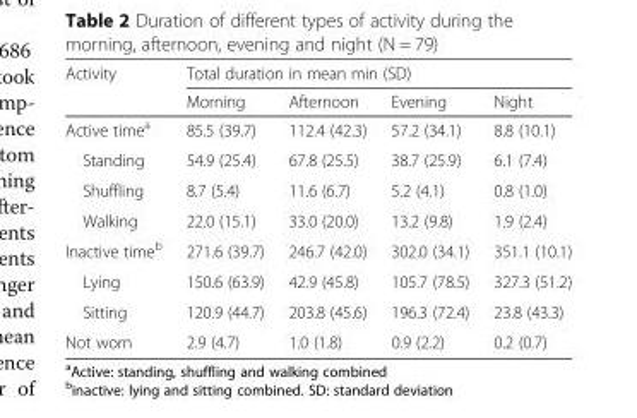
<table><thead><tr><td rowspan="2">Activity</td><td colspan="4">Total duration in mean min (SD)</td></tr><tr><td>Morning</td><td>Afternoon</td><td>Evening</td><td>Night</td></tr></thead><tbody><tr><td>Active time<sup>a</sup></td><td>85.5 (39.7)</td><td>112.4 (42.3)</td><td>57.2 (34.1)</td><td>8.8 (10.1)</td></tr><tr><td>Standing</td><td>54.9 (25.4)</td><td>67.8 (25.5)</td><td>38.7 (25.9)</td><td>6.1 (7.4)</td></tr><tr><td>Shuffling</td><td>8.7 (5.4)</td><td>11.6 (6.7)</td><td>5.2 (4.1)</td><td>0.8 (1.0)</td></tr><tr><td>Walking</td><td>22.0 (15.1)</td><td>33.0 (20.0)</td><td>13.2 (9.8)</td><td>1.9 (2.4)</td></tr><tr><td>Inactive time<sup>b</sup></td><td>271.6 (39.7)</td><td>246.7 (42.0)</td><td>302.0 (34.1)</td><td>351.1 (10.1)</td></tr><tr><td>Lying</td><td>150.6 (63.9)</td><td>42.9 (45.8)</td><td>105.7 (78.5)</td><td>327.3 (51.2)</td></tr><tr><td>Sitting</td><td>120.9 (44.7)</td><td>203.8 (45.6)</td><td>196.3 (72.4)</td><td>23.8 (43.3)</td></tr><tr><td>Not worn</td><td>2.9 (4.7)</td><td>1.0 (1.8)</td><td>0.9 (2.2)</td><td>0.2 (0.7)</td></tr></tbody></table>